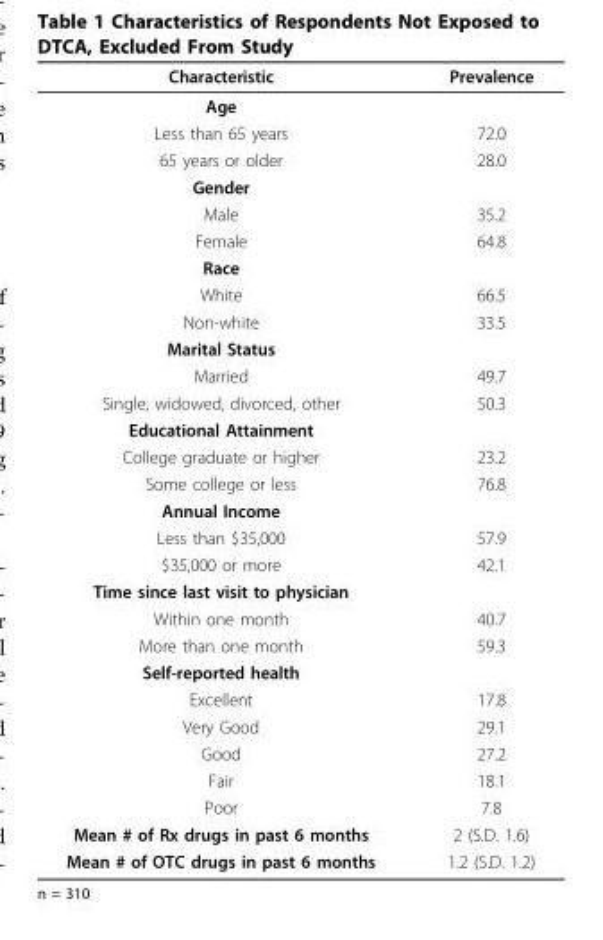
<table><thead><tr><td>Characteristic</td><td>Prevalence</td></tr></thead><tbody><tr><td colspan="2">Age</td></tr><tr><td>Less than 65 years</td><td>72.0</td></tr><tr><td>65 years or older</td><td>28.0</td></tr><tr><td colspan="2">Gender</td></tr><tr><td>Male</td><td>35.2</td></tr><tr><td>Female</td><td>64.8</td></tr><tr><td colspan="2">Race</td></tr><tr><td>White</td><td>66.5</td></tr><tr><td>Non-white</td><td>33.5</td></tr><tr><td colspan="2">Marital Status</td></tr><tr><td>Married</td><td>49.7</td></tr><tr><td>Single, widowed, divorced, other</td><td>50.3</td></tr><tr><td colspan="2">Educational Attainment</td></tr><tr><td>College graduate or higher</td><td>23.2</td></tr><tr><td>Some college or less</td><td>76.8</td></tr><tr><td colspan="2">Annual Income</td></tr><tr><td>Less than $35,000</td><td>57.9</td></tr><tr><td>$35,000 or more</td><td>42.1</td></tr><tr><td colspan="2">Time since last visit to physician</td></tr><tr><td>Within one month</td><td>40.7</td></tr><tr><td>More than one month</td><td>59.3</td></tr><tr><td colspan="2">Self-reported health</td></tr><tr><td>Excellent</td><td>17.8</td></tr><tr><td>Very Good</td><td>29.1</td></tr><tr><td>Good</td><td>27.2</td></tr><tr><td>Fair</td><td>18.1</td></tr><tr><td>Poor</td><td>7.8</td></tr><tr><td>Mean # of Rx drugs in past 6 months</td><td>2 (S.D. 1.6)</td></tr><tr><td>Mean # of OTC drugs in past 6 months</td><td>1.2 (S.D. 1.2)</td></tr></tbody></table>